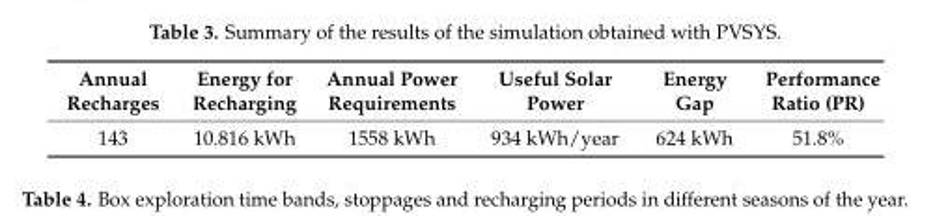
<table><thead><tr><td>Annual Recharges</td><td>Energy for Recharging</td><td>Annual Power Requirements</td><td>Useful Solar Power</td><td>Energy Gap</td><td>Performance Ratio (PR)</td></tr></thead><tbody><tr><td>143</td><td>10.816 kWh</td><td>1558 kWh</td><td>934 kWh/year</td><td>624 kWh</td><td>51.8%</td></tr></tbody></table>